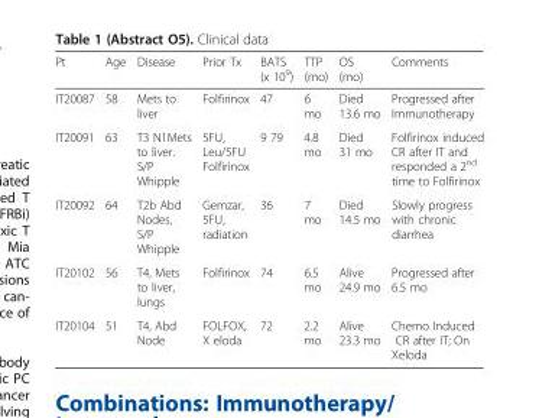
<table><thead><tr><td>Pt</td><td>Age</td><td>Disease</td><td>Prior Tx</td><td>BATS (x 10<sup>9</sup>)</td><td>TTP (mo)</td><td>OS (mo)</td><td>Comments</td></tr></thead><tbody><tr><td>IT20087</td><td>58</td><td>Mets to liver</td><td>Folfirinox</td><td>47</td><td>6 mo</td><td>Died 13.6 mo</td><td>Progressed after Immunotherapy</td></tr><tr><td>IT20091</td><td>63</td><td>T3 N1Mets to liver. S/P Whipple</td><td>5FU, Leu/5FU Folfirinox</td><td>9 79</td><td>4.8 mo</td><td>Died 31 mo</td><td>Folfirinox induced CR after IT and responded a 2<sup>nd</sup> time to Folfirinox</td></tr><tr><td>IT20092</td><td>64</td><td>T2b Abd Nodes, S/P Whipple</td><td>Gemzar, 5FU, radiation</td><td>36</td><td>7 mo</td><td>Died 14.5 mo</td><td>Slowly progress with chronic diarrhea</td></tr><tr><td>IT20102</td><td>56</td><td>T4, Mets to liver, lungs</td><td>Folfirinox</td><td>74</td><td>6.5 mo</td><td>Alive 24.9 mo</td><td>Progressed after 6.5 mo</td></tr><tr><td>IT20104</td><td>51</td><td>T4, Abd Node</td><td>FOLFOX, X eloda</td><td>72</td><td>2.2 mo</td><td>Alive 23.3 mo</td><td>Chemo Induced CR after IT; On Xeloda</td></tr></tbody></table>